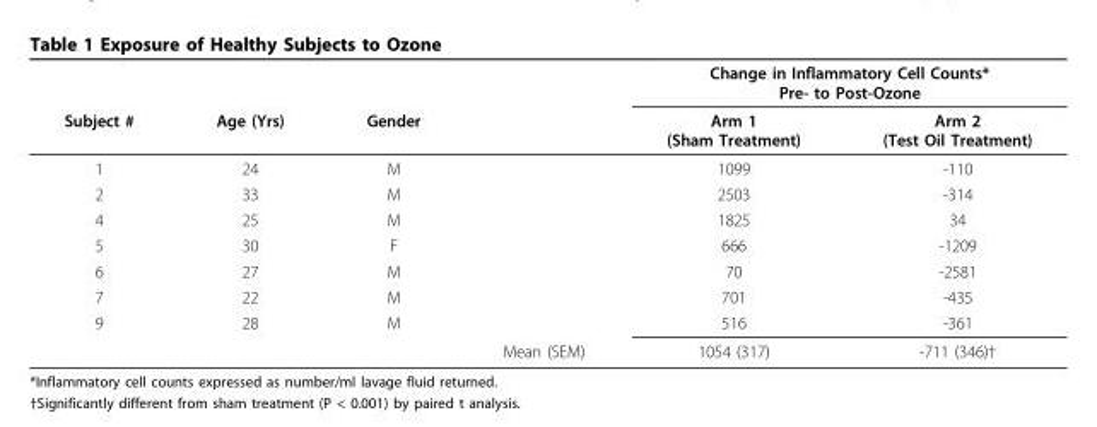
<table><thead><tr><td rowspan="2">Subject #</td><td rowspan="2">Age (Yrs)</td><td rowspan="2">Gender</td><td rowspan="2"></td><td colspan="2">Change in Inflammatory Cell Counts* Pre- to Post-Ozone</td></tr><tr><td>Arm 1 (Sham Treatment)</td><td>Arm 2 (Test Oil Treatment)</td></tr></thead><tbody><tr><td>1</td><td>24</td><td>M</td><td></td><td>1099</td><td>-110</td></tr><tr><td>2</td><td>33</td><td>M</td><td></td><td>2503</td><td>-314</td></tr><tr><td>4</td><td>25</td><td>M</td><td></td><td>1825</td><td>34</td></tr><tr><td>5</td><td>30</td><td>F</td><td></td><td>666</td><td>-1209</td></tr><tr><td>6</td><td>27</td><td>M</td><td></td><td>70</td><td>-2581</td></tr><tr><td>7</td><td>22</td><td>M</td><td></td><td>701</td><td>-435</td></tr><tr><td rowspan="2">9</td><td>28</td><td>M</td><td></td><td>516</td><td>-361</td></tr><tr><td></td><td></td><td>Mean (SEM)</td><td>1054 (317)</td><td>-711 (346)†</td></tr></tbody></table>